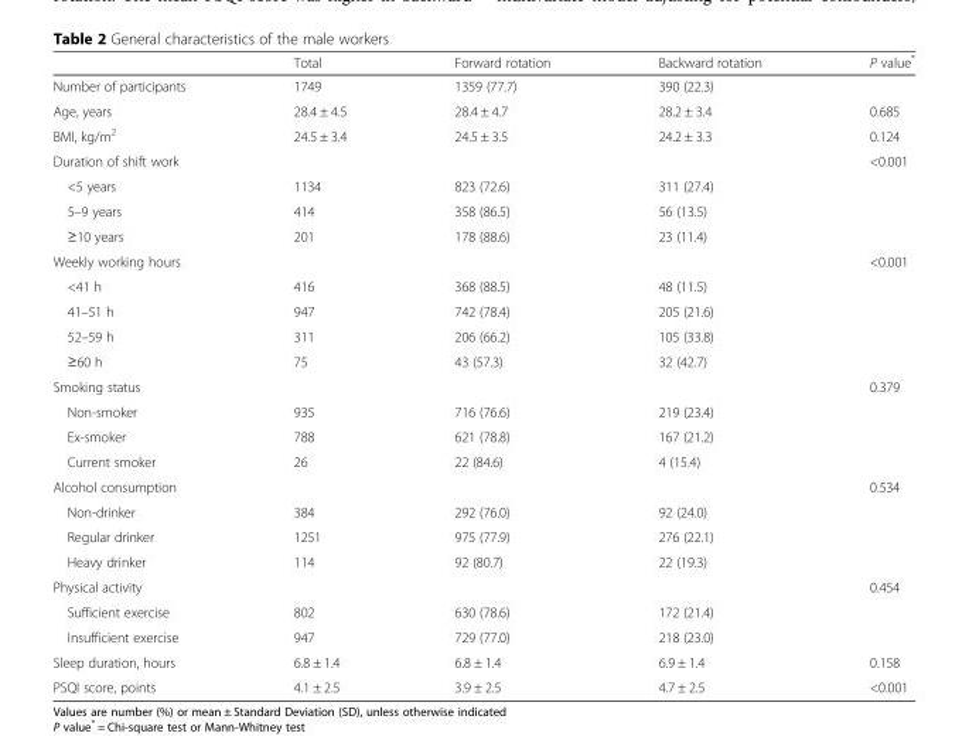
<table><thead><tr><td></td><td>Total</td><td>Forward rotation</td><td>Backward rotation</td><td>P value*</td></tr></thead><tbody><tr><td>Number of participants</td><td>1749</td><td>1359 (77.7)</td><td>390 (22.3)</td><td></td></tr><tr><td>Age, years</td><td>28.4 ± 4.5</td><td>28.4 ± 4.7</td><td>28.2 ± 3.4</td><td>0.685</td></tr><tr><td>BMI, kg/m<sup>2</sup></td><td>24.5 ± 3.4</td><td>24.5 ± 3.5</td><td>24.2 ± 3.3</td><td>0.124</td></tr><tr><td>Duration of shift work</td><td></td><td></td><td></td><td>&lt;0.001</td></tr><tr><td>&lt;5 years</td><td>1134</td><td>823 (72.6)</td><td>311 (27.4)</td><td></td></tr><tr><td>5–9 years</td><td>414</td><td>358 (86.5)</td><td>56 (13.5)</td><td></td></tr><tr><td>≥10 years</td><td>201</td><td>178 (88.6)</td><td>23 (11.4)</td><td></td></tr><tr><td>Weekly working hours</td><td></td><td></td><td></td><td>&lt;0.001</td></tr><tr><td>&lt;41 h</td><td>416</td><td>368 (88.5)</td><td>48 (11.5)</td><td></td></tr><tr><td>41–51 h</td><td>947</td><td>742 (78.4)</td><td>205 (21.6)</td><td></td></tr><tr><td>52–59 h</td><td>311</td><td>206 (66.2)</td><td>105 (33.8)</td><td></td></tr><tr><td>≥60 h</td><td>75</td><td>43 (57.3)</td><td>32 (42.7)</td><td></td></tr><tr><td>Smoking status</td><td></td><td></td><td></td><td>0.379</td></tr><tr><td>Non-smoker</td><td>935</td><td>716 (76.6)</td><td>219 (23.4)</td><td></td></tr><tr><td>Ex-smoker</td><td>788</td><td>621 (78.8)</td><td>167 (21.2)</td><td></td></tr><tr><td>Current smoker</td><td>26</td><td>22 (84.6)</td><td>4 (15.4)</td><td></td></tr><tr><td>Alcohol consumption</td><td></td><td></td><td></td><td>0.534</td></tr><tr><td>Non-drinker</td><td>384</td><td>292 (76.0)</td><td>92 (24.0)</td><td></td></tr><tr><td>Regular drinker</td><td>1251</td><td>975 (77.9)</td><td>276 (22.1)</td><td></td></tr><tr><td>Heavy drinker</td><td>114</td><td>92 (80.7)</td><td>22 (19.3)</td><td></td></tr><tr><td>Physical activity</td><td></td><td></td><td></td><td>0.454</td></tr><tr><td>Sufficient exercise</td><td>802</td><td>630 (78.6)</td><td>172 (21.4)</td><td></td></tr><tr><td>Insufficient exercise</td><td>947</td><td>729 (77.0)</td><td>218 (23.0)</td><td></td></tr><tr><td>Sleep duration, hours</td><td>6.8 ± 1.4</td><td>6.8 ± 1.4</td><td>6.9 ± 1.4</td><td>0.158</td></tr><tr><td>PSQI score, points</td><td>4.1 ± 2.5</td><td>3.9 ± 2.5</td><td>4.7 ± 2.5</td><td>&lt;0.001</td></tr></tbody></table>